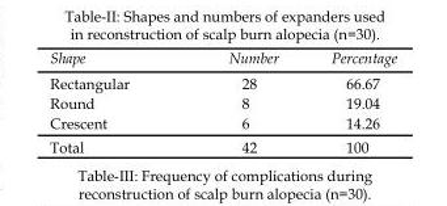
<table><thead><tr><td>Shape</td><td>Number</td><td>Percentage</td></tr></thead><tbody><tr><td>Rectangular</td><td>28</td><td>66.67</td></tr><tr><td>Round</td><td>8</td><td>19.04</td></tr><tr><td>Crescent</td><td>6</td><td>14.26</td></tr><tr><td>Total</td><td>42</td><td>100</td></tr></tbody></table>